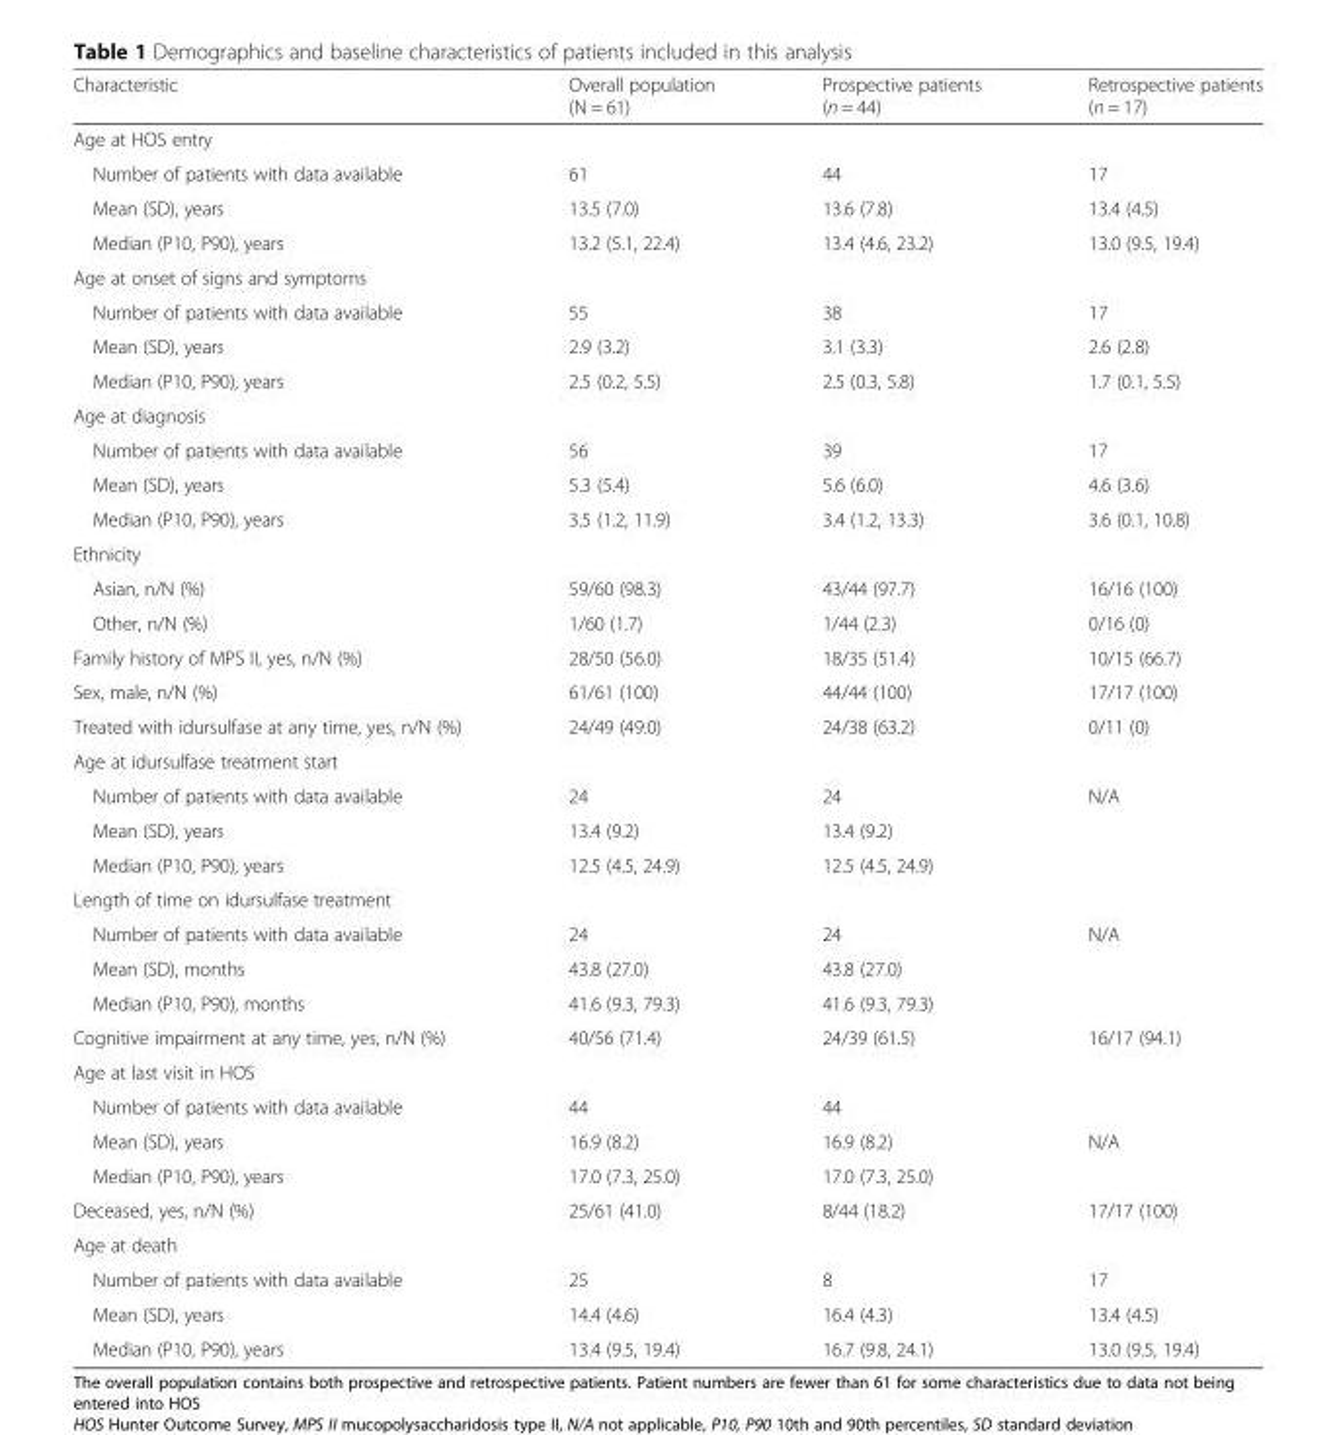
<table><thead><tr><td>Characteristic</td><td>Overall population (N = 61)</td><td>Prospective patients (n = 44)</td><td>Retrospective patients (n = 17)</td></tr></thead><tbody><tr><td colspan="4">Age at HOS entry</td></tr><tr><td>Number of patients with data available</td><td>61</td><td>44</td><td>17</td></tr><tr><td>Mean (SD), years</td><td>13.5 (7.0)</td><td>13.6 (7.8)</td><td>13.4 (4.5)</td></tr><tr><td>Median (P10, P90), years</td><td>13.2 (5.1, 22.4)</td><td>13.4 (4.6, 23.2)</td><td>13.0 (9.5, 19.4)</td></tr><tr><td colspan="4">Age at onset of signs and symptoms</td></tr><tr><td>Number of patients with data available</td><td>55</td><td>38</td><td>17</td></tr><tr><td>Mean (SD), years</td><td>2.9 (3.2)</td><td>3.1 (3.3)</td><td>2.6 (2.8)</td></tr><tr><td>Median (P10, P90), years</td><td>2.5 (0.2, 5.5)</td><td>2.5 (0.3, 5.8)</td><td>1.7 (0.1, 5.5)</td></tr><tr><td colspan="4">Age at diagnosis</td></tr><tr><td>Number of patients with data available</td><td>56</td><td>39</td><td>17</td></tr><tr><td>Mean (SD), years</td><td>5.3 (5.4)</td><td>5.6 (6.0)</td><td>4.6 (3.6)</td></tr><tr><td>Median (P10, P90), years</td><td>3.5 (1.2, 11.9)</td><td>3.4 (1.2, 13.3)</td><td>3.6 (0.1, 10.8)</td></tr><tr><td colspan="4">Ethnicity</td></tr><tr><td>Asian, n/N (%)</td><td>59/60 (98.3)</td><td>43/44 (97.7)</td><td>16/16 (100)</td></tr><tr><td>Other, n/N (%)</td><td>1/60 (1.7)</td><td>1/44 (2.3)</td><td>0/16 (0)</td></tr><tr><td>Family history of MPS II, yes, n/N (%)</td><td>28/50 (56.0)</td><td>18/35 (51.4)</td><td>10/15 (66.7)</td></tr><tr><td>Sex, male, n/N (%)</td><td>61/61 (100)</td><td>44/44 (100)</td><td>17/17 (100)</td></tr><tr><td>Treated with idursulfase at any time, yes, n/N (%)</td><td>24/49 (49.0)</td><td>24/38 (63.2)</td><td>0/11 (0)</td></tr><tr><td colspan="4">Age at idursulfase treatment start</td></tr><tr><td>Number of patients with data available</td><td>24</td><td>24</td><td>N/A</td></tr><tr><td>Mean (SD), years</td><td>13.4 (9.2)</td><td>13.4 (9.2)</td><td></td></tr><tr><td>Median (P10, P90), years</td><td>12.5 (4.5, 24.9)</td><td>12.5 (4.5, 24.9)</td><td></td></tr><tr><td colspan="4">Length of time on idursulfase treatment</td></tr><tr><td>Number of patients with data available</td><td>24</td><td>24</td><td>N/A</td></tr><tr><td>Mean (SD), months</td><td>43.8 (27.0)</td><td>43.8 (27.0)</td><td></td></tr><tr><td>Median (P10, P90), months</td><td>41.6 (9.3, 79.3)</td><td>41.6 (9.3, 79.3)</td><td></td></tr><tr><td>Cognitive impairment at any time, yes, n/N (%)</td><td>40/56 (71.4)</td><td>24/39 (61.5)</td><td>16/17 (94.1)</td></tr><tr><td colspan="4">Age at last visit in HOS</td></tr><tr><td>Number of patients with data available</td><td>44</td><td>44</td><td></td></tr><tr><td>Mean (SD), years</td><td>16.9 (8.2)</td><td>16.9 (8.2)</td><td>N/A</td></tr><tr><td>Median (P10, P90), years</td><td>17.0 (7.3, 25.0)</td><td>17.0 (7.3, 25.0)</td><td></td></tr><tr><td>Deceased, yes, n/N (%)</td><td>25/61 (41.0)</td><td>8/44 (18.2)</td><td>17/17 (100)</td></tr><tr><td colspan="4">Age at death</td></tr><tr><td>Number of patients with data available</td><td>25</td><td>8</td><td>17</td></tr><tr><td>Mean (SD), years</td><td>14.4 (4.6)</td><td>16.4 (4.3)</td><td>13.4 (4.5)</td></tr><tr><td>Median (P10, P90), years</td><td>13.4 (9.5, 19.4)</td><td>16.7 (9.8, 24.1)</td><td>13.0 (9.5, 19.4)</td></tr></tbody></table>